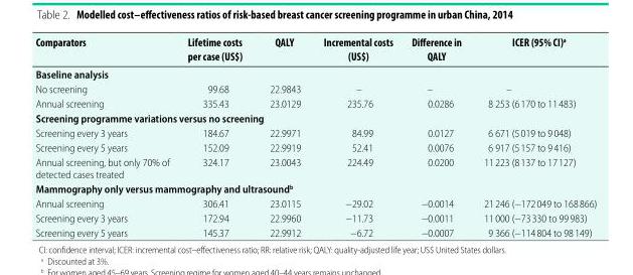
<table><thead><tr><td>Comparators</td><td>Lifetime costs per case (US$)</td><td>QALY</td><td>Incremental costs (US$)</td><td>Difference in QALY</td><td>ICER (95% CI)<sup>a</sup></td></tr></thead><tbody><tr><td colspan="6">Baseline analysis</td></tr><tr><td>No screening</td><td>99.68</td><td>22.9843</td><td>–</td><td>–</td><td>–</td></tr><tr><td>Annual screening</td><td>335.43</td><td>23.0129</td><td>235.76</td><td>0.0286</td><td>8 253 (6 170 to 11 483)</td></tr><tr><td colspan="6">Screening programme variations versus no screening</td></tr><tr><td>Screening every 3 years</td><td>184.67</td><td>22.9971</td><td>84.99</td><td>0.0127</td><td>6 671 (5 019 to 9 048)</td></tr><tr><td>Screening every 5 years</td><td>152.09</td><td>22.9919</td><td>52.41</td><td>0.0076</td><td>6 917 (5 157 to 9 416)</td></tr><tr><td>Annual screening, but only 70% of detected cases treated</td><td>324.17</td><td>23.0043</td><td>224.49</td><td>0.0200</td><td>11 223 (8 137 to 17 127)</td></tr><tr><td colspan="6">Mammography only versus mammography and ultrasound<sup>b</sup></td></tr><tr><td>Annual screening</td><td>306.41</td><td>23.0115</td><td>−29.02</td><td>−0.0014</td><td>21 246 (−172 049 to 168 866)</td></tr><tr><td>Screening every 3 years</td><td>172.94</td><td>22.9960</td><td>−11.73</td><td>−0.0011</td><td>11 000 (−73 330 to 99 983)</td></tr><tr><td>Screening every 5 years</td><td>145.37</td><td>22.9912</td><td>−6.72</td><td>−0.0007</td><td>9 366 (−114 804 to 98 149)</td></tr></tbody></table>